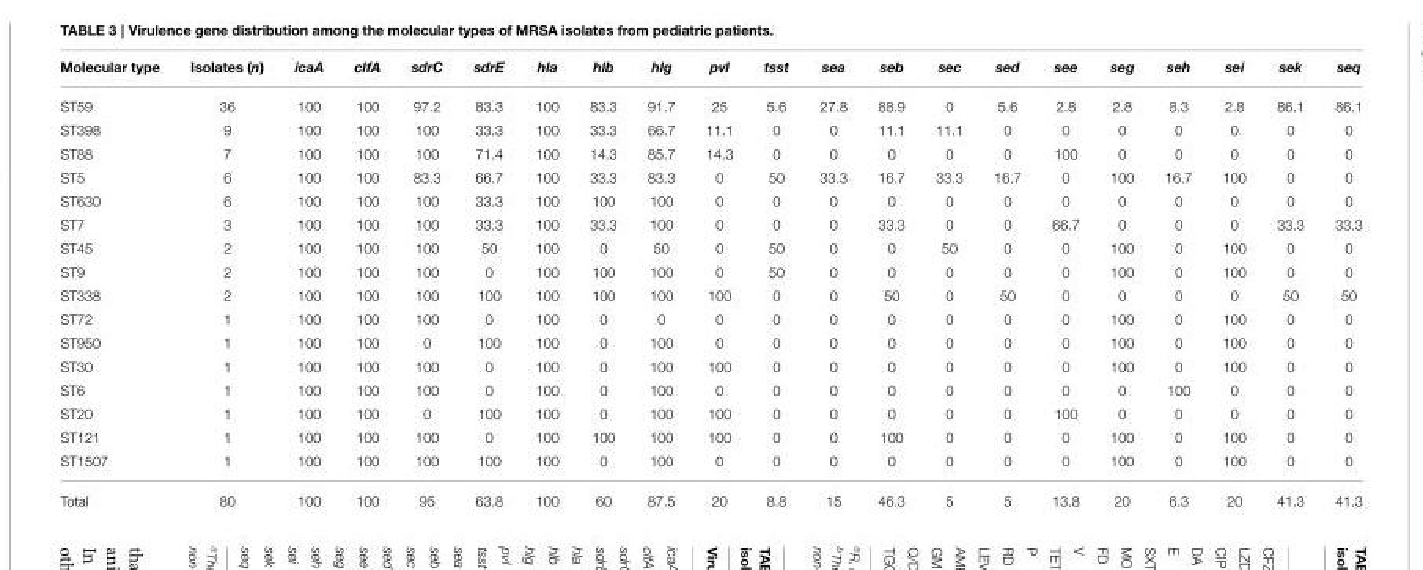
<table><thead><tr><td>Molecular type</td><td>Isolates (n)</td><td>icaA</td><td>clfA</td><td>sdrC</td><td>sdrE</td><td>hla</td><td>hlb</td><td>hlg</td><td>pvl</td><td>tsst</td><td>sea</td><td>seb</td><td>sec</td><td>sed</td><td>see</td><td>seg</td><td>seh</td><td>sei</td><td>sek</td><td>seq</td></tr></thead><tbody><tr><td>ST59</td><td>36</td><td>100</td><td>100</td><td>97.2</td><td>83.3</td><td>100</td><td>83.3</td><td>91.7</td><td>25</td><td>5.6</td><td>27.8</td><td>88.9</td><td>0</td><td>5.6</td><td>2.8</td><td>2.8</td><td>8.3</td><td>2.8</td><td>86.1</td><td>86.1</td></tr><tr><td>ST398</td><td>9</td><td>100</td><td>100</td><td>100</td><td>33.3</td><td>100</td><td>33.3</td><td>66.7</td><td>11.1</td><td>0</td><td>0</td><td>11.1</td><td>11.1</td><td>0</td><td>0</td><td>0</td><td>0</td><td>0</td><td>0</td><td>0</td></tr><tr><td>ST88</td><td>7</td><td>100</td><td>100</td><td>100</td><td>71.4</td><td>100</td><td>14.3</td><td>85.7</td><td>14.3</td><td>0</td><td>0</td><td>0</td><td>0</td><td>0</td><td>100</td><td>0</td><td>0</td><td>0</td><td>0</td><td>0</td></tr><tr><td>ST5</td><td>6</td><td>100</td><td>100</td><td>83.3</td><td>66.7</td><td>100</td><td>33.3</td><td>83.3</td><td>0</td><td>50</td><td>33.3</td><td>16.7</td><td>33.3</td><td>16.7</td><td>0</td><td>100</td><td>16.7</td><td>100</td><td>0</td><td>0</td></tr><tr><td>ST630</td><td>6</td><td>100</td><td>100</td><td>100</td><td>33.3</td><td>100</td><td>100</td><td>100</td><td>0</td><td>0</td><td>0</td><td>0</td><td>0</td><td>0</td><td>0</td><td>0</td><td>0</td><td>0</td><td>0</td><td>0</td></tr><tr><td>ST7</td><td>3</td><td>100</td><td>100</td><td>100</td><td>33.3</td><td>100</td><td>33.3</td><td>100</td><td>0</td><td>0</td><td>0</td><td>33.3</td><td>0</td><td>0</td><td>66.7</td><td>0</td><td>0</td><td>0</td><td>33.3</td><td>33.3</td></tr><tr><td>ST45</td><td>2</td><td>100</td><td>100</td><td>100</td><td>50</td><td>100</td><td>0</td><td>50</td><td>0</td><td>50</td><td>0</td><td>0</td><td>50</td><td>0</td><td>0</td><td>100</td><td>0</td><td>100</td><td>0</td><td>0</td></tr><tr><td>ST9</td><td>2</td><td>100</td><td>100</td><td>100</td><td>0</td><td>100</td><td>100</td><td>100</td><td>0</td><td>50</td><td>0</td><td>0</td><td>0</td><td>0</td><td>0</td><td>100</td><td>0</td><td>100</td><td>0</td><td>0</td></tr><tr><td>ST338</td><td>2</td><td>100</td><td>100</td><td>100</td><td>100</td><td>100</td><td>100</td><td>100</td><td>100</td><td>0</td><td>0</td><td>50</td><td>0</td><td>50</td><td>0</td><td>0</td><td>0</td><td>0</td><td>50</td><td>50</td></tr><tr><td>ST72</td><td>1</td><td>100</td><td>100</td><td>100</td><td>0</td><td>100</td><td>0</td><td>0</td><td>0</td><td>0</td><td>0</td><td>0</td><td>0</td><td>0</td><td>0</td><td>100</td><td>0</td><td>100</td><td>0</td><td>0</td></tr><tr><td>ST950</td><td>1</td><td>100</td><td>100</td><td>0</td><td>100</td><td>100</td><td>0</td><td>100</td><td>0</td><td>0</td><td>0</td><td>0</td><td>0</td><td>0</td><td>0</td><td>100</td><td>0</td><td>100</td><td>0</td><td>0</td></tr><tr><td>ST30</td><td>1</td><td>100</td><td>100</td><td>100</td><td>0</td><td>100</td><td>0</td><td>100</td><td>100</td><td>0</td><td>0</td><td>0</td><td>0</td><td>0</td><td>0</td><td>100</td><td>0</td><td>100</td><td>0</td><td>0</td></tr><tr><td>ST6</td><td>1</td><td>100</td><td>100</td><td>100</td><td>0</td><td>100</td><td>0</td><td>100</td><td>0</td><td>0</td><td>0</td><td>0</td><td>0</td><td>0</td><td>0</td><td>0</td><td>100</td><td>0</td><td>0</td><td>0</td></tr><tr><td>ST20</td><td>1</td><td>100</td><td>100</td><td>0</td><td>100</td><td>100</td><td>0</td><td>100</td><td>100</td><td>0</td><td>0</td><td>0</td><td>0</td><td>0</td><td>100</td><td>0</td><td>0</td><td>0</td><td>0</td><td>0</td></tr><tr><td>ST121</td><td>1</td><td>100</td><td>100</td><td>100</td><td>0</td><td>100</td><td>100</td><td>100</td><td>100</td><td>0</td><td>0</td><td>100</td><td>0</td><td>0</td><td>0</td><td>100</td><td>0</td><td>100</td><td>0</td><td>0</td></tr><tr><td>ST1507</td><td>1</td><td>100</td><td>100</td><td>100</td><td>100</td><td>100</td><td>0</td><td>100</td><td>0</td><td>0</td><td>0</td><td>0</td><td>0</td><td>0</td><td>0</td><td>100</td><td>0</td><td>100</td><td>0</td><td>0</td></tr><tr><td>Total</td><td>80</td><td>100</td><td>100</td><td>95</td><td>63.8</td><td>100</td><td>60</td><td>87.5</td><td>20</td><td>8.8</td><td>15</td><td>46.3</td><td>5</td><td>5</td><td>13.8</td><td>20</td><td>6.3</td><td>20</td><td>41.3</td><td>41.3</td></tr></tbody></table>